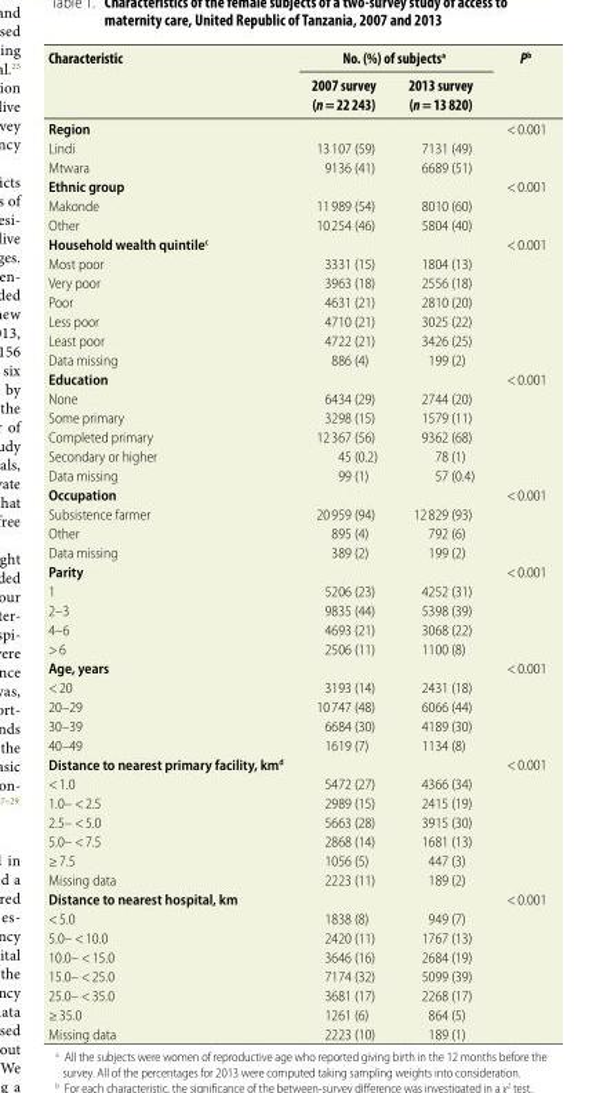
<table><thead><tr><td rowspan="2">Characteristic</td><td colspan="2">No. (%) of subjects<sup>a</sup></td><td rowspan="2">P<sup>b</sup></td></tr><tr><td>2007 survey (n = 22 243)</td><td>2013 survey (n = 13 820)</td></tr></thead><tbody><tr><td>Region</td><td></td><td></td><td>&lt; 0.001</td></tr><tr><td>Lindi</td><td>13 107 (59)</td><td>7131 (49)</td><td></td></tr><tr><td>Mtwara</td><td>9136 (41)</td><td>6689 (51)</td><td></td></tr><tr><td>Ethnic group</td><td></td><td></td><td>&lt; 0.001</td></tr><tr><td>Makonde</td><td>11 989 (54)</td><td>8010 (60)</td><td></td></tr><tr><td>Other</td><td>10 254 (46)</td><td>5804 (40)</td><td></td></tr><tr><td>Household wealth quintile<sup>c</sup></td><td></td><td></td><td>&lt; 0.001</td></tr><tr><td>Most poor</td><td>3331 (15)</td><td>1804 (13)</td><td></td></tr><tr><td>Very poor</td><td>3963 (18)</td><td>2556 (18)</td><td></td></tr><tr><td>Poor</td><td>4631 (21)</td><td>2810 (20)</td><td></td></tr><tr><td>Less poor</td><td>4710 (21)</td><td>3025 (22)</td><td></td></tr><tr><td>Least poor</td><td>4722 (21)</td><td>3426 (25)</td><td></td></tr><tr><td>Data missing</td><td>886 (4)</td><td>199 (2)</td><td></td></tr><tr><td>Education</td><td></td><td></td><td>&lt; 0.001</td></tr><tr><td>None</td><td>6434 (29)</td><td>2744 (20)</td><td></td></tr><tr><td>Some primary</td><td>3298 (15)</td><td>1579 (11)</td><td></td></tr><tr><td>Completed primary</td><td>12 367 (56)</td><td>9362 (68)</td><td></td></tr><tr><td>Secondary or higher</td><td>45 (0.2)</td><td>78 (1)</td><td></td></tr><tr><td>Data missing</td><td>99 (1)</td><td>57 (0.4)</td><td></td></tr><tr><td>Occupation</td><td></td><td></td><td>&lt; 0.001</td></tr><tr><td>Subsistence farmer</td><td>20 959 (94)</td><td>12 829 (93)</td><td></td></tr><tr><td>Other</td><td>895 (4)</td><td>792 (6)</td><td></td></tr><tr><td>Data missing</td><td>389 (2)</td><td>199 (2)</td><td></td></tr><tr><td>Parity</td><td></td><td></td><td>&lt; 0.001</td></tr><tr><td>1</td><td>5206 (23)</td><td>4252 (31)</td><td></td></tr><tr><td>2–3</td><td>9835 (44)</td><td>5398 (39)</td><td></td></tr><tr><td>4–6</td><td>4693 (21)</td><td>3068 (22)</td><td></td></tr><tr><td>&gt; 6</td><td>2506 (11)</td><td>1100 (8)</td><td></td></tr><tr><td>Age, years</td><td></td><td></td><td>&lt; 0.001</td></tr><tr><td>&lt; 20</td><td>3193 (14)</td><td>2431 (18)</td><td></td></tr><tr><td>20–29</td><td>10 747 (48)</td><td>6066 (44)</td><td></td></tr><tr><td>30–39</td><td>6684 (30)</td><td>4189 (30)</td><td></td></tr><tr><td>40–49</td><td>1619 (7)</td><td>1134 (8)</td><td></td></tr><tr><td>Distance to nearest primary facility, km<sup>d</sup></td><td></td><td></td><td>&lt; 0.001</td></tr><tr><td>&lt; 1.0</td><td>5472 (27)</td><td>4366 (34)</td><td></td></tr><tr><td>1.0– &lt; 2.5</td><td>2989 (15)</td><td>2415 (19)</td><td></td></tr><tr><td>2.5– &lt; 5.0</td><td>5663 (28)</td><td>3915 (30)</td><td></td></tr><tr><td>5.0– &lt; 7.5</td><td>2868 (14)</td><td>1681 (13)</td><td></td></tr><tr><td>≥ 7.5</td><td>1056 (5)</td><td>447 (3)</td><td></td></tr><tr><td>Missing data</td><td>2223 (11)</td><td>189 (2)</td><td></td></tr><tr><td>Distance to nearest hospital, km</td><td></td><td></td><td>&lt; 0.001</td></tr><tr><td>&lt; 5.0</td><td>1838 (8)</td><td>949 (7)</td><td></td></tr><tr><td>5.0– &lt; 10.0</td><td>2420 (11)</td><td>1767 (13)</td><td></td></tr><tr><td>10.0– &lt; 15.0</td><td>3646 (16)</td><td>2684 (19)</td><td></td></tr><tr><td>15.0– &lt; 25.0</td><td>7174 (32)</td><td>5099 (39)</td><td></td></tr><tr><td>25.0– &lt; 35.0</td><td>3681 (17)</td><td>2268 (17)</td><td></td></tr><tr><td>≥ 35.0</td><td>1261 (6)</td><td>864 (5)</td><td></td></tr><tr><td>Missing data</td><td>2223 (10)</td><td>189 (1)</td><td></td></tr></tbody></table>